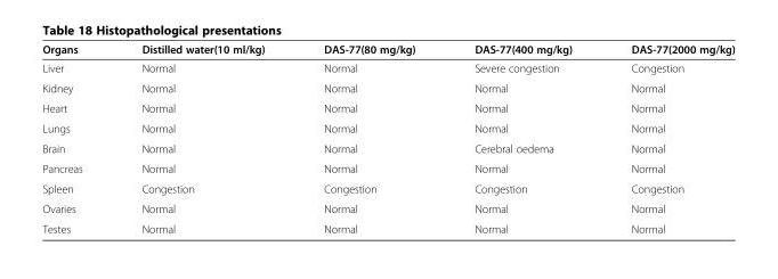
<table><thead><tr><td>Organs</td><td>Distilled water(10 ml/kg)</td><td>DAS-77(80 mg/kg)</td><td>DAS-77(400 mg/kg)</td><td>DAS-77(2000 mg/kg)</td></tr></thead><tbody><tr><td>Liver</td><td>Normal</td><td>Normal</td><td>Severe congestion</td><td>Congestion</td></tr><tr><td>Kidney</td><td>Normal</td><td>Normal</td><td>Normal</td><td>Normal</td></tr><tr><td>Heart</td><td>Normal</td><td>Normal</td><td>Normal</td><td>Normal</td></tr><tr><td>Lungs</td><td>Normal</td><td>Normal</td><td>Normal</td><td>Normal</td></tr><tr><td>Brain</td><td>Normal</td><td>Normal</td><td>Cerebral oedema</td><td>Normal</td></tr><tr><td>Pancreas</td><td>Normal</td><td>Normal</td><td>Normal</td><td>Normal</td></tr><tr><td>Spleen</td><td>Congestion</td><td>Congestion</td><td>Congestion</td><td>Congestion</td></tr><tr><td>Ovaries</td><td>Normal</td><td>Normal</td><td>Normal</td><td>Normal</td></tr><tr><td>Testes</td><td>Normal</td><td>Normal</td><td>Normal</td><td>Normal</td></tr></tbody></table>